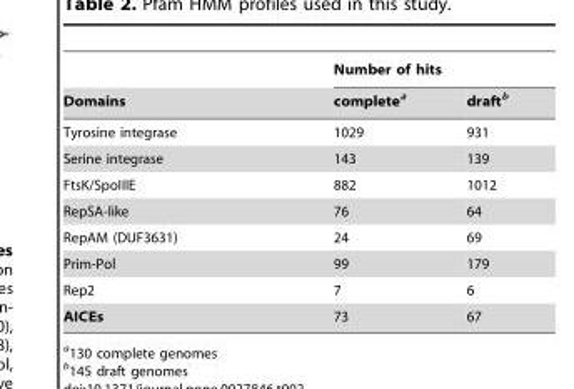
<table><thead><tr><td rowspan="2">Domains</td><td colspan="2">Number of hits</td></tr><tr><td>complete<sup>a</sup></td><td>draft<sup>b</sup></td></tr></thead><tbody><tr><td>Tyrosine integrase</td><td>1029</td><td>931</td></tr><tr><td>Serine integrase</td><td>143</td><td>139</td></tr><tr><td>FtsK/SpoIIIE</td><td>882</td><td>1012</td></tr><tr><td>RepSA-like</td><td>76</td><td>64</td></tr><tr><td>RepAM (DUF3631)</td><td>24</td><td>69</td></tr><tr><td>Prim-Pol</td><td>99</td><td>179</td></tr><tr><td>Rep2</td><td>7</td><td>6</td></tr><tr><td>AICEs</td><td>73</td><td>67</td></tr></tbody></table>